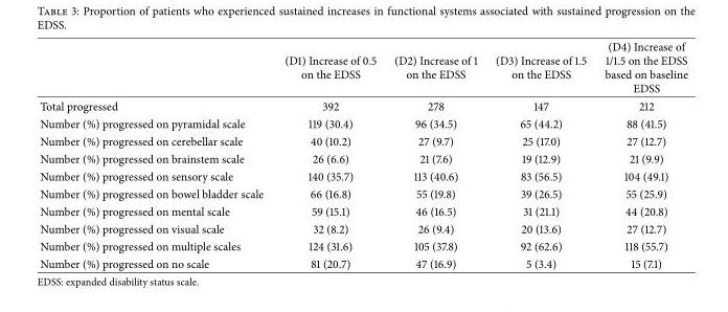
<table><thead><tr><td></td><td>(D1) Increase of 0.5 on the EDSS</td><td>(D2) Increase of 1 on the EDSS</td><td>(D3) Increase of 1.5 on the EDSS</td><td>(D4) Increase of 1/1.5 on the EDSS based on baseline EDSS</td></tr></thead><tbody><tr><td>Total progressed</td><td>392</td><td>278</td><td>147</td><td>212</td></tr><tr><td>Number (%) progressed on pyramidal scale</td><td>119 (30.4)</td><td>96 (34.5)</td><td>65 (44.2)</td><td>88 (41.5)</td></tr><tr><td>Number (%) progressed on cerebellar scale</td><td>40 (10.2)</td><td>27 (9.7)</td><td>25 (17.0)</td><td>27 (12.7)</td></tr><tr><td>Number (%) progressed on brainstem scale</td><td>26 (6.6)</td><td>21 (7.6)</td><td>19 (12.9)</td><td>21 (9.9)</td></tr><tr><td>Number (%) progressed on sensory scale</td><td>140 (35.7)</td><td>113 (40.6)</td><td>83 (56.5)</td><td>104 (49.1)</td></tr><tr><td>Number (%) progressed on bowel bladder scale</td><td>66 (16.8)</td><td>55 (19.8)</td><td>39 (26.5)</td><td>55 (25.9)</td></tr><tr><td>Number (%) progressed on mental scale</td><td>59 (15.1)</td><td>46 (16.5)</td><td>31 (21.1)</td><td>44 (20.8)</td></tr><tr><td>Number (%) progressed on visual scale</td><td>32 (8.2)</td><td>26 (9.4)</td><td>20 (13.6)</td><td>27 (12.7)</td></tr><tr><td>Number (%) progressed on multiple scales</td><td>124 (31.6)</td><td>105 (37.8)</td><td>92 (62.6)</td><td>118 (55.7)</td></tr><tr><td>Number (%) progressed on no scale</td><td>81 (20.7)</td><td>47 (16.9)</td><td>5 (3.4)</td><td>15 (7.1)</td></tr></tbody></table>